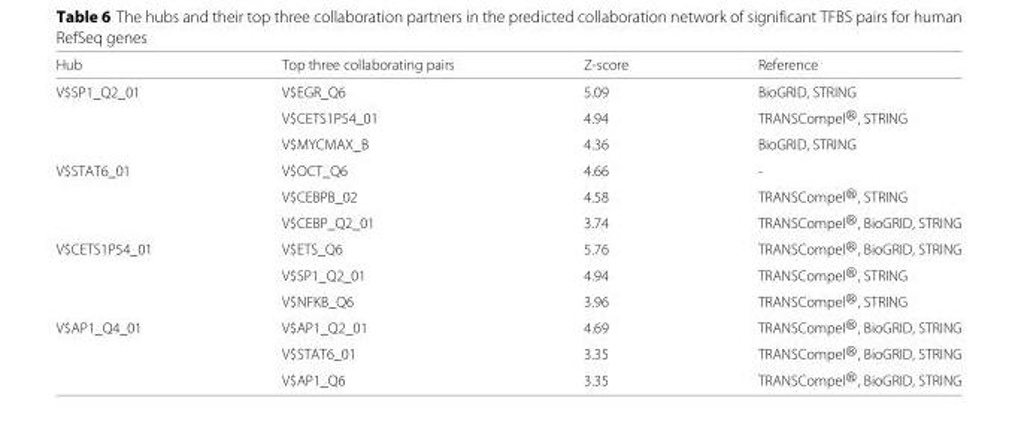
<table><thead><tr><td>Hub</td><td>Top three collaborating pairs</td><td>Z-score</td><td>Reference</td></tr></thead><tbody><tr><td rowspan="3">V$SP1_Q2_01</td><td>V$EGR_Q6</td><td>5.09</td><td>BioGRID, STRING</td></tr><tr><td>V$CETS1P54_01</td><td>4.94</td><td>TRANSCompel®, STRING</td></tr><tr><td>V$MYCMAX_B</td><td>4.36</td><td>BioGRID, STRING</td></tr><tr><td rowspan="3">V$STAT6_01</td><td>V$OCT_Q6</td><td>4.66</td><td>-</td></tr><tr><td>V$CEBPB_02</td><td>4.58</td><td>TRANSCompel®, STRING</td></tr><tr><td>V$CEBP_Q2_01</td><td>3.74</td><td>TRANSCompel®, BioGRID, STRING</td></tr><tr><td rowspan="3">V$CETS1P54_01</td><td>V$ETS_Q6</td><td>5.76</td><td>TRANSCompel®, BioGRID, STRING</td></tr><tr><td>V$SP1_Q2_01</td><td>4.94</td><td>TRANSCompel®, STRING</td></tr><tr><td>V$NFKB_Q6</td><td>3.96</td><td>TRANSCompel®, STRING</td></tr><tr><td rowspan="3">V$AP1_Q4_01</td><td>V$AP1_Q2_01</td><td>4.69</td><td>TRANSCompel®, BioGRID, STRING</td></tr><tr><td>V$STAT6_01</td><td>3.35</td><td>TRANSCompel®, BioGRID, STRING</td></tr><tr><td>V$AP1_Q6</td><td>3.35</td><td>TRANSCompel®, BioGRID, STRING</td></tr></tbody></table>